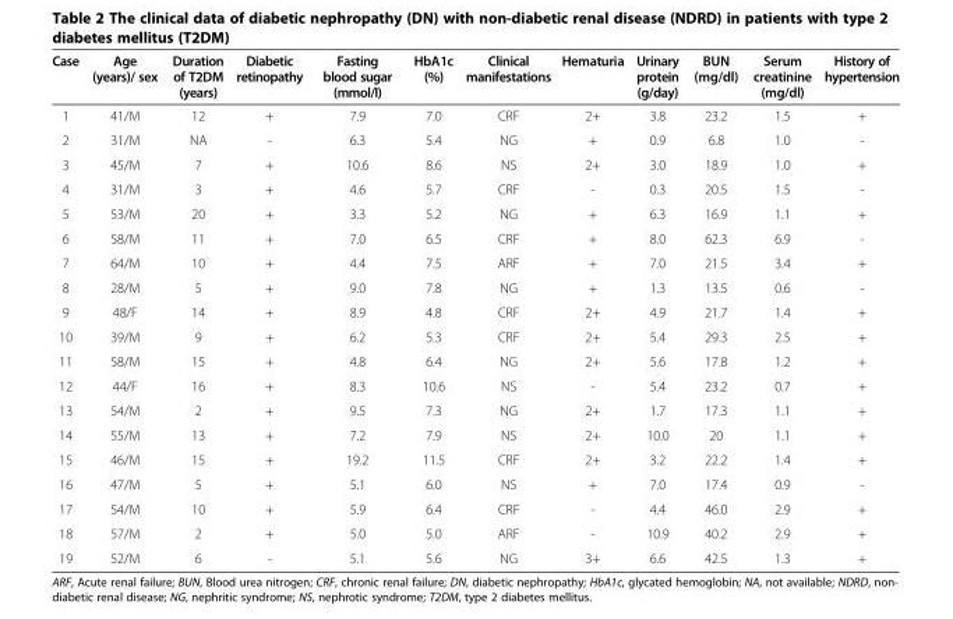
<table><thead><tr><td>Case</td><td>Age (years)/ sex</td><td>Duration of T2DM (years)</td><td>Diabetic retinopathy</td><td>Fasting blood sugar (mmol/l)</td><td>HbA1c (%)</td><td>Clinical manifestations</td><td>Hematuria</td><td>Urinary protein (g/day)</td><td>BUN (mg/dl)</td><td>Serum creatinine (mg/dl)</td><td>History of hypertension</td></tr></thead><tbody><tr><td>1</td><td>41/M</td><td>12</td><td>+</td><td>7.9</td><td>7.0</td><td>CRF</td><td>2+</td><td>3.8</td><td>23.2</td><td>1.5</td><td>+</td></tr><tr><td>2</td><td>31/M</td><td>NA</td><td>-</td><td>6.3</td><td>5.4</td><td>NG</td><td>+</td><td>0.9</td><td>6.8</td><td>1.0</td><td>-</td></tr><tr><td>3</td><td>45/M</td><td>7</td><td>+</td><td>10.6</td><td>8.6</td><td>NS</td><td>2+</td><td>3.0</td><td>18.9</td><td>1.0</td><td>+</td></tr><tr><td>4</td><td>31/M</td><td>3</td><td>+</td><td>4.6</td><td>5.7</td><td>CRF</td><td>-</td><td>0.3</td><td>20.5</td><td>1.5</td><td>-</td></tr><tr><td>5</td><td>53/M</td><td>20</td><td>+</td><td>3.3</td><td>5.2</td><td>NG</td><td>+</td><td>6.3</td><td>16.9</td><td>1.1</td><td>+</td></tr><tr><td>6</td><td>58/M</td><td>11</td><td>+</td><td>7.0</td><td>6.5</td><td>CRF</td><td>+</td><td>8.0</td><td>62.3</td><td>6.9</td><td>-</td></tr><tr><td>7</td><td>64/M</td><td>10</td><td>+</td><td>4.4</td><td>7.5</td><td>ARF</td><td>+</td><td>7.0</td><td>21.5</td><td>3.4</td><td>+</td></tr><tr><td>8</td><td>28/M</td><td>5</td><td>+</td><td>9.0</td><td>7.8</td><td>NG</td><td>+</td><td>1.3</td><td>13.5</td><td>0.6</td><td>-</td></tr><tr><td>9</td><td>48/F</td><td>14</td><td>+</td><td>8.9</td><td>4.8</td><td>CRF</td><td>2+</td><td>4.9</td><td>21.7</td><td>1.4</td><td>+</td></tr><tr><td>10</td><td>39/M</td><td>9</td><td>+</td><td>6.2</td><td>5.3</td><td>CRF</td><td>2+</td><td>5.4</td><td>29.3</td><td>2.5</td><td>+</td></tr><tr><td>11</td><td>58/M</td><td>15</td><td>+</td><td>4.8</td><td>6.4</td><td>NG</td><td>2+</td><td>5.6</td><td>17.8</td><td>1.2</td><td>+</td></tr><tr><td>12</td><td>44/F</td><td>16</td><td>+</td><td>8.3</td><td>10.6</td><td>NS</td><td>-</td><td>5.4</td><td>23.2</td><td>0.7</td><td>+</td></tr><tr><td>13</td><td>54/M</td><td>2</td><td>+</td><td>9.5</td><td>7.3</td><td>NG</td><td>2+</td><td>1.7</td><td>17.3</td><td>1.1</td><td>+</td></tr><tr><td>14</td><td>55/M</td><td>13</td><td>+</td><td>7.2</td><td>7.9</td><td>NS</td><td>2+</td><td>10.0</td><td>20</td><td>1.1</td><td>+</td></tr><tr><td>15</td><td>46/M</td><td>15</td><td>+</td><td>19.2</td><td>11.5</td><td>CRF</td><td>2+</td><td>3.2</td><td>22.2</td><td>1.4</td><td>+</td></tr><tr><td>16</td><td>47/M</td><td>5</td><td>+</td><td>5.1</td><td>6.0</td><td>NS</td><td>+</td><td>7.0</td><td>17.4</td><td>0.9</td><td>-</td></tr><tr><td>17</td><td>54/M</td><td>10</td><td>+</td><td>5.9</td><td>6.4</td><td>CRF</td><td>-</td><td>4.4</td><td>46.0</td><td>2.9</td><td>+</td></tr><tr><td>18</td><td>57/M</td><td>2</td><td>+</td><td>5.0</td><td>5.0</td><td>ARF</td><td>-</td><td>10.9</td><td>40.2</td><td>2.9</td><td>+</td></tr><tr><td>19</td><td>52/M</td><td>6</td><td>-</td><td>5.1</td><td>5.6</td><td>NG</td><td>3+</td><td>6.6</td><td>42.5</td><td>1.3</td><td>+</td></tr></tbody></table>